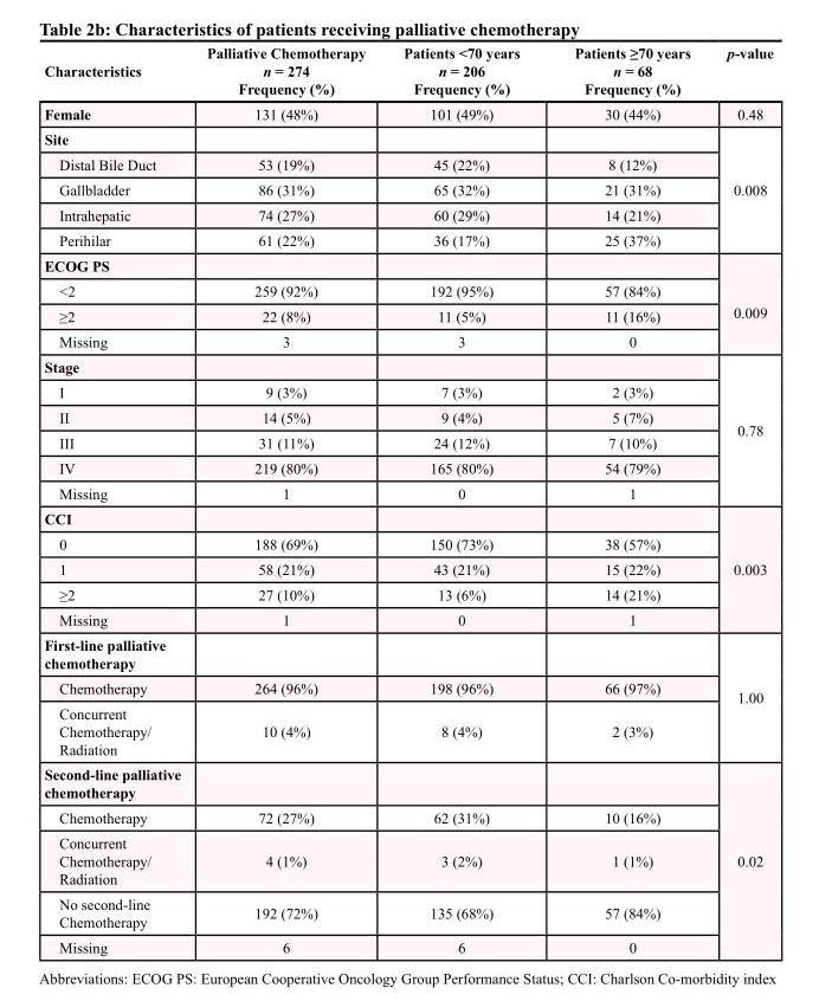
<table><thead><tr><td>Characteristics</td><td>Palliative Chemotherapy n = 274 Frequency (%)</td><td>Patients &lt;70 years n = 206 Frequency (%)</td><td>Patients ≥70 years n = 68 Frequency (%)</td><td>p-value</td></tr></thead><tbody><tr><td>Female</td><td>131 (48%)</td><td>101 (49%)</td><td>30 (44%)</td><td>0.48</td></tr><tr><td colspan="4">Site</td><td rowspan="5">0.008</td></tr><tr><td>Distal Bile Duct</td><td>53 (19%)</td><td>45 (22%)</td><td>8 (12%)</td></tr><tr><td>Gallbladder</td><td>86 (31%)</td><td>65 (32%)</td><td>21 (31%)</td></tr><tr><td>Intrahepatic</td><td>74 (27%)</td><td>60 (29%)</td><td>14 (21%)</td></tr><tr><td>Perihilar</td><td>61 (22%)</td><td>36 (17%)</td><td>25 (37%)</td></tr><tr><td colspan="4">ECOG PS</td><td rowspan="4">0.009</td></tr><tr><td>&lt;2</td><td>259 (92%)</td><td>192 (95%)</td><td>57 (84%)</td></tr><tr><td>≥2</td><td>22 (8%)</td><td>11 (5%)</td><td>11 (16%)</td></tr><tr><td>Missing</td><td>3</td><td>3</td><td>0</td></tr><tr><td colspan="4">Stage</td><td rowspan="6">0.78</td></tr><tr><td>I</td><td>9 (3%)</td><td>7 (3%)</td><td>2 (3%)</td></tr><tr><td>II</td><td>14 (5%)</td><td>9 (4%)</td><td>5 (7%)</td></tr><tr><td>III</td><td>31 (11%)</td><td>24 (12%)</td><td>7 (10%)</td></tr><tr><td>IV</td><td>219 (80%)</td><td>165 (80%)</td><td>54 (79%)</td></tr><tr><td>Missing</td><td>1</td><td>0</td><td>1</td></tr><tr><td colspan="4">CCI</td><td rowspan="5">0.003</td></tr><tr><td>0</td><td>188 (69%)</td><td>150 (73%)</td><td>38 (57%)</td></tr><tr><td>1</td><td>58 (21%)</td><td>43 (21%)</td><td>15 (22%)</td></tr><tr><td>≥2</td><td>27 (10%)</td><td>13 (6%)</td><td>14 (21%)</td></tr><tr><td>Missing</td><td>1</td><td>0</td><td>1</td></tr><tr><td colspan="4">First-line palliative chemotherapy</td><td rowspan="3">1.00</td></tr><tr><td>Chemotherapy</td><td>264 (96%)</td><td>198 (96%)</td><td>66 (97%)</td></tr><tr><td>Concurrent Chemotherapy/ Radiation</td><td>10 (4%)</td><td>8 (4%)</td><td>2 (3%)</td></tr><tr><td colspan="4">Second-line palliative chemotherapy</td><td rowspan="5">0.02</td></tr><tr><td>Chemotherapy</td><td>72 (27%)</td><td>62 (31%)</td><td>10 (16%)</td></tr><tr><td>Concurrent Chemotherapy/ Radiation</td><td>4 (1%)</td><td>3 (2%)</td><td>1 (1%)</td></tr><tr><td>No second-line Chemotherapy</td><td>192 (72%)</td><td>135 (68%)</td><td>57 (84%)</td></tr><tr><td>Missing</td><td>6</td><td>6</td><td>0</td></tr></tbody></table>